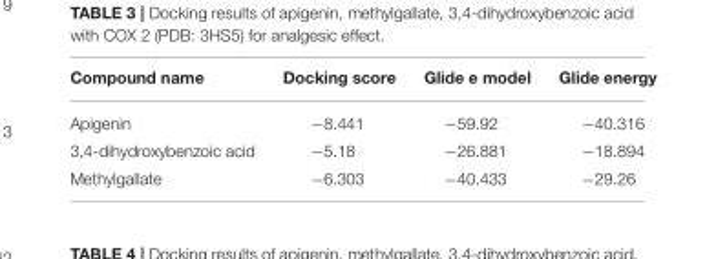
<table><thead><tr><td>Compound name</td><td>Docking score</td><td>Glide e model</td><td>Glide energy</td></tr></thead><tbody><tr><td>Apigenin</td><td>−8.441</td><td>−59.92</td><td>−40.316</td></tr><tr><td>3,4-dihydroxybenzoic acid</td><td>−5.18</td><td>−26.881</td><td>−18.894</td></tr><tr><td>Methylgallate</td><td>−6.303</td><td>−40.433</td><td>−29.26</td></tr></tbody></table>